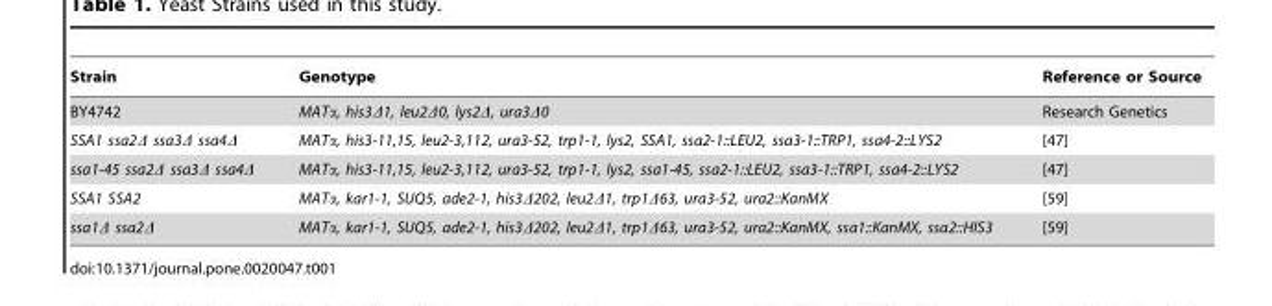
<table><thead><tr><td>Strain</td><td>Genotype</td><td>Reference or Source</td></tr></thead><tbody><tr><td>BY4742</td><td>MATα, his3Δ1, leu2Δ0, lys2Δ, ura3Δ0</td><td>Research Genetics</td></tr><tr><td>SSA1 ssa2Δ ssa3Δ ssa4Δ</td><td>MATα, his3-11,15, leu2-3,112, ura3-52, trp1-1, lys2, SSA1, ssa2-1::LEU2, ssa3-1::TRP1, ssa4-2::LYS2</td><td>[47]</td></tr><tr><td>ssa1-45 ssa2Δ ssa3Δ ssa4Δ</td><td>MATα, his3-11,15, leu2-3,112, ura3-52, trp1-1, lys2, ssa1-45, ssa2-1::LEU2, ssa3-1::TRP1, ssa4-2::LYS2</td><td>[47]</td></tr><tr><td>SSA1 SSA2</td><td>MATα, kar1-1, SUQ5, ade2-1, his3Δ202, leu2Δ1, trp1Δ63, ura3-52, ura2::KanMX</td><td>[59]</td></tr><tr><td>ssa1Δ ssa2Δ</td><td>MATα, kar1-1, SUQ5, ade2-1, his3Δ202, leu2Δ1, trp1Δ63, ura3-52, ura2::KanMX, ssa1::KanMX, ssa2::HIS3</td><td>[59]</td></tr></tbody></table>